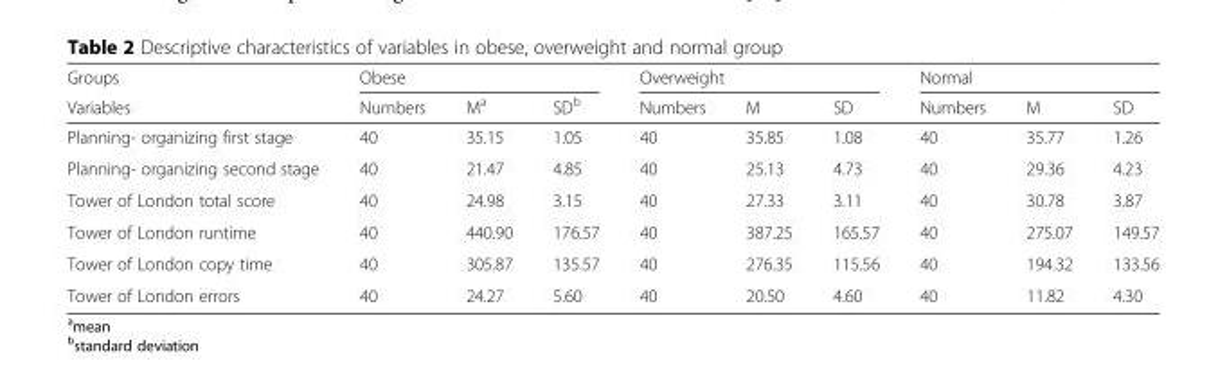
<table><thead><tr><td rowspan="2">Groups Variables</td><td colspan="3">Obese</td><td colspan="3">Overweight</td><td colspan="3">Normal</td></tr><tr><td>Numbers</td><td>M<sup>a</sup></td><td>SD<sup>b</sup></td><td>Numbers</td><td>M</td><td>SD</td><td>Numbers</td><td>M</td><td>SD</td></tr></thead><tbody><tr><td>Planning- organizing first stage</td><td>40</td><td>35.15</td><td>1.05</td><td>40</td><td>35.85</td><td>1.08</td><td>40</td><td>35.77</td><td>1.26</td></tr><tr><td>Planning- organizing second stage</td><td>40</td><td>21.47</td><td>4.85</td><td>40</td><td>25.13</td><td>4.73</td><td>40</td><td>29.36</td><td>4.23</td></tr><tr><td>Tower of London total score</td><td>40</td><td>24.98</td><td>3.15</td><td>40</td><td>27.33</td><td>3.11</td><td>40</td><td>30.78</td><td>3.87</td></tr><tr><td>Tower of London runtime</td><td>40</td><td>440.90</td><td>176.57</td><td>40</td><td>387.25</td><td>165.57</td><td>40</td><td>275.07</td><td>149.57</td></tr><tr><td>Tower of London copy time</td><td>40</td><td>305.87</td><td>135.57</td><td>40</td><td>276.35</td><td>115.56</td><td>40</td><td>194.32</td><td>133.56</td></tr><tr><td>Tower of London errors</td><td>40</td><td>24.27</td><td>5.60</td><td>40</td><td>20.50</td><td>4.60</td><td>40</td><td>11.82</td><td>4.30</td></tr></tbody></table>